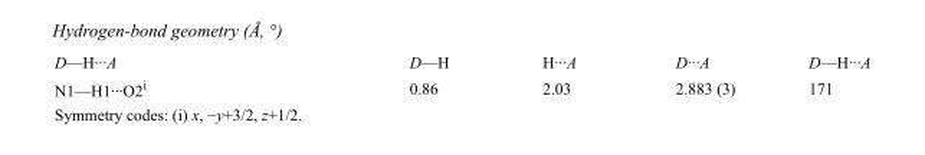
<table><tbody><tr><td>D—H···A</td><td>D—H</td><td>H···A</td><td>D···A</td><td>D—H···A</td></tr><tr><td>N1—H1···O2<sup>i</sup></td><td>0.86</td><td>2.03</td><td>2.883 (3)</td><td>171</td></tr></tbody></table>